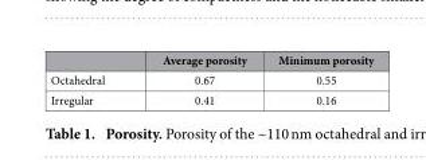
<table><thead><tr><td></td><td>Average porosity</td><td>Minimum porosity</td></tr></thead><tbody><tr><td>Octahedral</td><td>0.67</td><td>0.55</td></tr><tr><td>Irregular</td><td>0.41</td><td>0.16</td></tr></tbody></table>